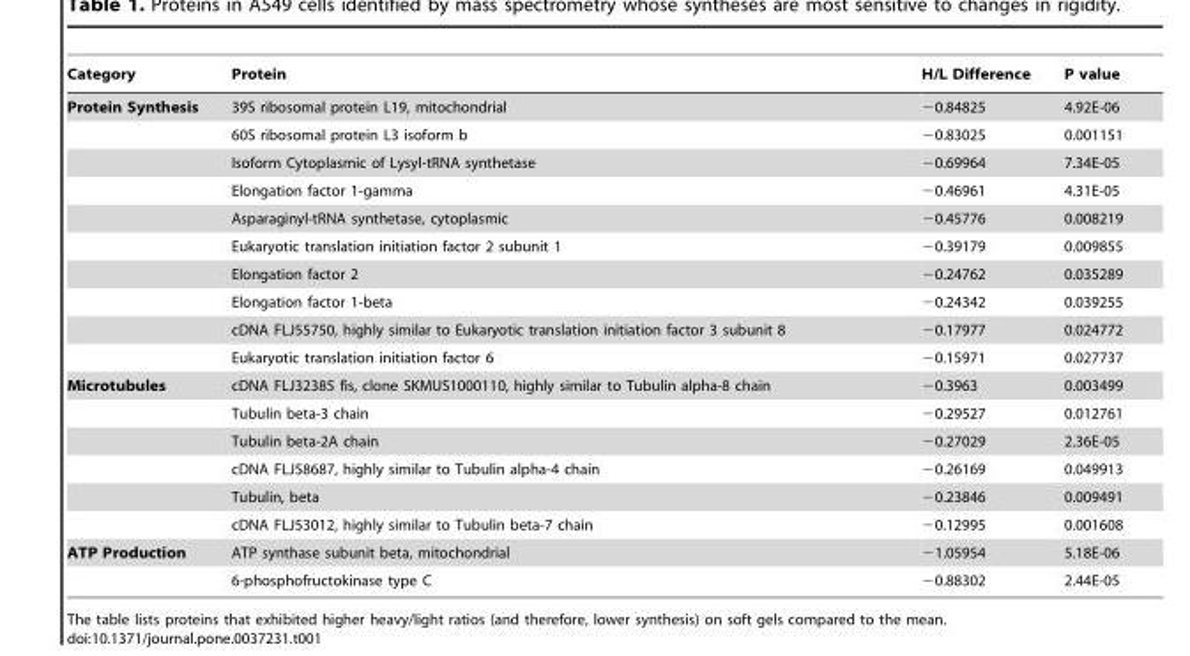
<table><thead><tr><td>Category</td><td>Protein</td><td>H/L Difference</td><td>P value</td></tr></thead><tbody><tr><td rowspan="10">Protein Synthesis</td><td>39S ribosomal protein L19, mitochondrial</td><td>−0.84825</td><td>4.92E-06</td></tr><tr><td>60S ribosomal protein L3 isoform b</td><td>−0.83025</td><td>0.001151</td></tr><tr><td>Isoform Cytoplasmic of Lysyl-tRNA synthetase</td><td>−0.69964</td><td>7.34E-05</td></tr><tr><td>Elongation factor 1-gamma</td><td>−0.46961</td><td>4.31E-05</td></tr><tr><td>Asparaginyl-tRNA synthetase, cytoplasmic</td><td>−0.45776</td><td>0.008219</td></tr><tr><td>Eukaryotic translation initiation factor 2 subunit 1</td><td>−0.39179</td><td>0.009855</td></tr><tr><td>Elongation factor 2</td><td>−0.24762</td><td>0.035289</td></tr><tr><td>Elongation factor 1-beta</td><td>−0.24342</td><td>0.039255</td></tr><tr><td>cDNA FLJ55750, highly similar to Eukaryotic translation initiation factor 3 subunit 8</td><td>−0.17977</td><td>0.024772</td></tr><tr><td>Eukaryotic translation initiation factor 6</td><td>−0.15971</td><td>0.027737</td></tr><tr><td rowspan="6">Microtubules</td><td>cDNA FLJ32385 fis, clone SKMUS1000110, highly similar to Tubulin alpha-8 chain</td><td>−0.3963</td><td>0.003499</td></tr><tr><td>Tubulin beta-3 chain</td><td>−0.29527</td><td>0.012761</td></tr><tr><td>Tubulin beta-2A chain</td><td>−0.27029</td><td>2.36E-05</td></tr><tr><td>cDNA FLJ58687, highly similar to Tubulin alpha-4 chain</td><td>−0.26169</td><td>0.049913</td></tr><tr><td>Tubulin, beta</td><td>−0.23846</td><td>0.009491</td></tr><tr><td>cDNA FLJ53012, highly similar to Tubulin beta-7 chain</td><td>−0.12995</td><td>0.001608</td></tr><tr><td rowspan="2">ATP Production</td><td>ATP synthase subunit beta, mitochondrial</td><td>−1.05954</td><td>5.18E-06</td></tr><tr><td>6-phosphofructokinase type C</td><td>−0.88302</td><td>2.44E-05</td></tr></tbody></table>